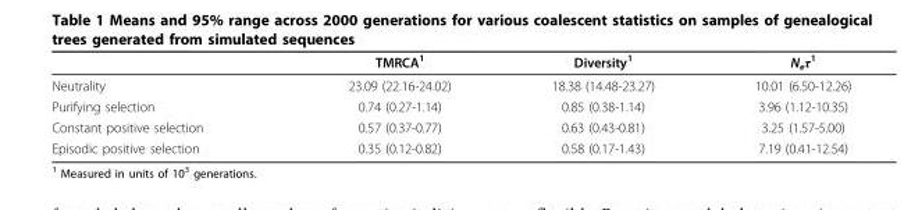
<table><thead><tr><td></td><td>TMRCA<sup>1</sup></td><td>Diversity<sup>1</sup></td><td>N<sub>e</sub>τ<sup>1</sup></td></tr></thead><tbody><tr><td>Neutrality</td><td>23.09 (22.16-24.02)</td><td>18.38 (14.48-23.27)</td><td>10.01 (6.50-12.26)</td></tr><tr><td>Purifying selection</td><td>0.74 (0.27-1.14)</td><td>0.85 (0.38-1.14)</td><td>3.96 (1.12-10.35)</td></tr><tr><td>Constant positive selection</td><td>0.57 (0.37-0.77)</td><td>0.63 (0.43-0.81)</td><td>3.25 (1.57-5.00)</td></tr><tr><td>Episodic positive selection</td><td>0.35 (0.12-0.82)</td><td>0.58 (0.17-1.43)</td><td>7.19 (0.41-12.54)</td></tr></tbody></table>